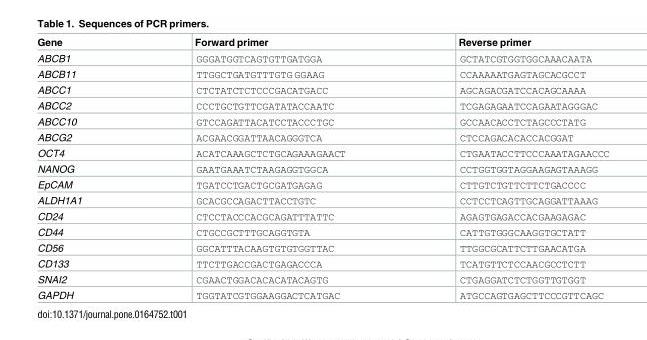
<table><thead><tr><td>Gene</td><td>Forward primer</td><td>Reverse primer</td></tr></thead><tbody><tr><td>ABCB1</td><td>GGGATGGTCAGTGTTGATGGA</td><td>GCTATCGTGGTGGCAAACAATA</td></tr><tr><td>ABCB11</td><td>TTGGCTGATGTTTGTG GGAAG</td><td>CCAAAAATGAGTAGCACGCCT</td></tr><tr><td>ABCC1</td><td>CTCTATCTCTCCCGACATGACC</td><td>AGCAGACGATCCACAGCAAAA</td></tr><tr><td>ABCC2</td><td>CCCTGCTGTTCGATATACCAATC</td><td>TCGAGAGAATCCAGAATAGGGAC</td></tr><tr><td>ABCC10</td><td>GTCCAGATTACATCCTACCCTGC</td><td>GCCAACACCTCTAGCCCTATG</td></tr><tr><td>ABCG2</td><td>ACGAACGGATTAACAGGGTCA</td><td>CTCCAGACACACCACGGAT</td></tr><tr><td>OCT4</td><td>ACATCAAAGCTCTGCAGAAAGAACT</td><td>CTGAATACCTTCCCAAATAGAACCC</td></tr><tr><td>NANOG</td><td>GAATGAAATCTAAGAGGTGGCA</td><td>CCTGGTGGTAGGAAGAGTAAAGG</td></tr><tr><td>EpCAM</td><td>TGATCCTGACTGCGATGAGAG</td><td>CTTGTCTGTTCTTCTGACCCC</td></tr><tr><td>ALDH1A1</td><td>GCACGCCAGACTTACCTGTC</td><td>CCTCCTCAGTTGCAGGATTAAAG</td></tr><tr><td>CD24</td><td>CTCCTACCCACGCAGATTTATTC</td><td>AGAGTGAGACCACGAAGAGAC</td></tr><tr><td>CD44</td><td>CTGCCGCTTTGCAGGTGTA</td><td>CATTGTGGGCAAGGTGCTATT</td></tr><tr><td>CD56</td><td>GGCATTTACAAGTGTGTGGTTAC</td><td>TTGGCGCATTCTTGAACATGA</td></tr><tr><td>CD133</td><td>TTCTTGACCGACTGAGACCCA</td><td>TCATGTTCTCCAACGCCTCTT</td></tr><tr><td>SNAI2</td><td>CGAACTGGACACACATACAGTG</td><td>CTGAGGATCTCTGGTTGTGGT</td></tr><tr><td>GAPDH</td><td>TGGTATCGTGGAAGGACTCATGAC</td><td>ATGCCAGTGAGCTTCCCGTTCAGC</td></tr></tbody></table>